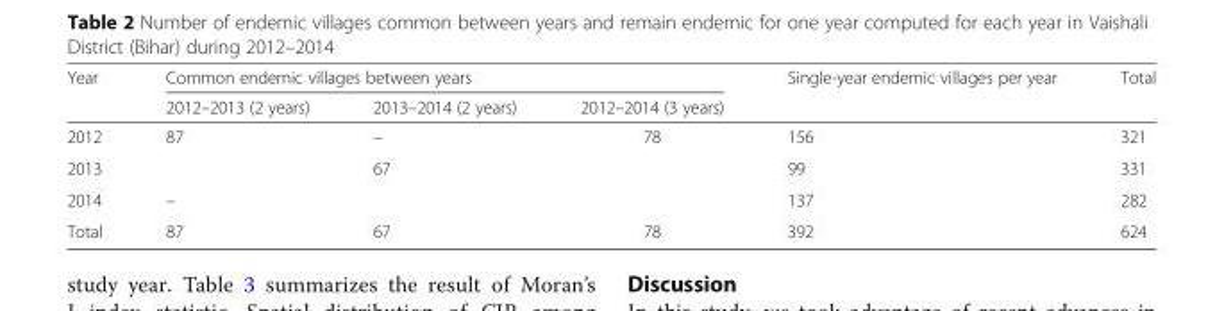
<table><thead><tr><td rowspan="2">Year</td><td colspan="3">Common endemic villages between years</td><td rowspan="2">Single-year endemic villages per year</td><td rowspan="2">Total</td></tr><tr><td>2012–2013 (2 years)</td><td>2013–2014 (2 years)</td><td>2012–2014 (3 years)</td></tr></thead><tbody><tr><td>2012</td><td rowspan="2">87</td><td>–</td><td rowspan="3">78</td><td>156</td><td>321</td></tr><tr><td>2013</td><td rowspan="2">67</td><td>99</td><td>331</td></tr><tr><td>2014</td><td>–</td><td>137</td><td>282</td></tr><tr><td>Total</td><td>87</td><td>67</td><td>78</td><td>392</td><td>624</td></tr></tbody></table>